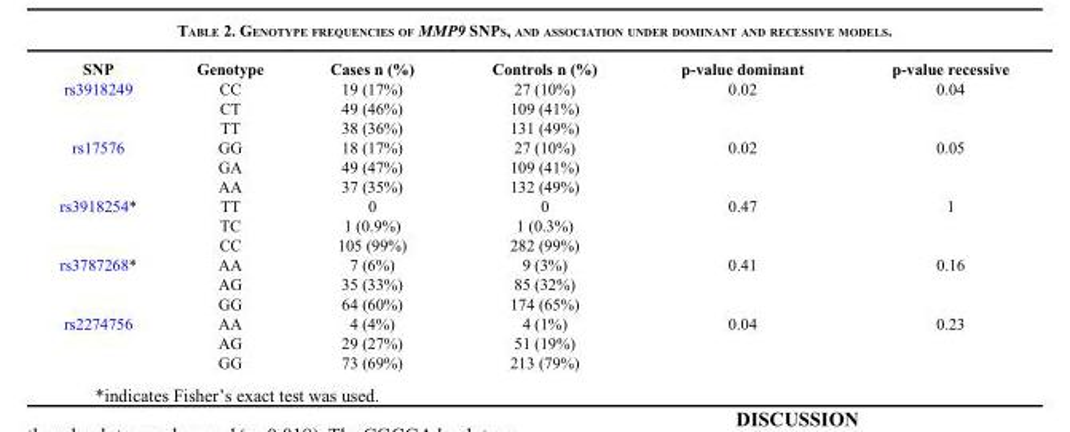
<table><thead><tr><td>SNP</td><td>Genotype</td><td>Cases n (%)</td><td>Controls n (%)</td><td>p-value dominant</td><td>p-value recessive</td></tr></thead><tbody><tr><td rowspan="3">rs3918249</td><td>CC</td><td>19 (17%)</td><td>27 (10%)</td><td>0.02</td><td>0.04</td></tr><tr><td>CT</td><td>49 (46%)</td><td>109 (41%)</td><td></td><td></td></tr><tr><td>TT</td><td>38 (36%)</td><td>131 (49%)</td><td></td><td></td></tr><tr><td rowspan="3">rs17576</td><td>GG</td><td>18 (17%)</td><td>27 (10%)</td><td>0.02</td><td>0.05</td></tr><tr><td>GA</td><td>49 (47%)</td><td>109 (41%)</td><td></td><td></td></tr><tr><td>AA</td><td>37 (35%)</td><td>132 (49%)</td><td></td><td></td></tr><tr><td rowspan="3">rs3918254*</td><td>TT</td><td>0</td><td>0</td><td>0.47</td><td>1</td></tr><tr><td>TC</td><td>1 (0.9%)</td><td>1 (0.3%)</td><td></td><td></td></tr><tr><td>CC</td><td>105 (99%)</td><td>282 (99%)</td><td></td><td></td></tr><tr><td rowspan="3">rs3787268*</td><td>AA</td><td>7 (6%)</td><td>9 (3%)</td><td>0.41</td><td>0.16</td></tr><tr><td>AG</td><td>35 (33%)</td><td>85 (32%)</td><td></td><td></td></tr><tr><td>GG</td><td>64 (60%)</td><td>174 (65%)</td><td></td><td></td></tr><tr><td rowspan="3">rs2274756</td><td>AA</td><td>4 (4%)</td><td>4 (1%)</td><td>0.04</td><td>0.23</td></tr><tr><td>AG</td><td>29 (27%)</td><td>51 (19%)</td><td></td><td></td></tr><tr><td>GG</td><td>73 (69%)</td><td>213 (79%)</td><td></td><td></td></tr></tbody></table>